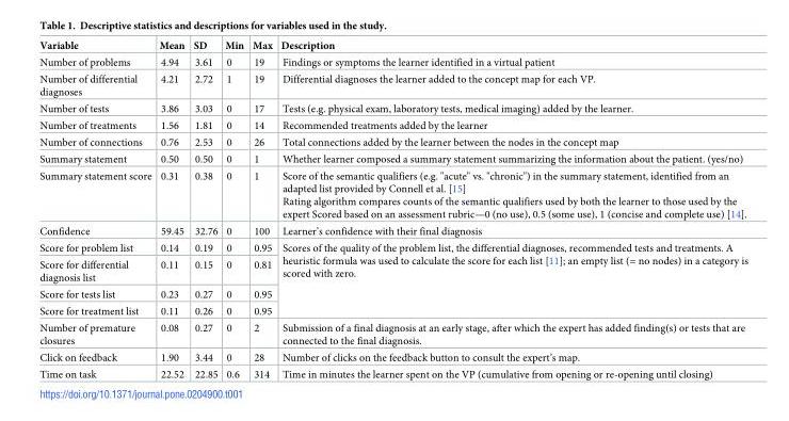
<table><thead><tr><td>Variable</td><td>Mean</td><td>SD</td><td>Min</td><td>Max</td><td>Description</td></tr></thead><tbody><tr><td>Number of problems</td><td>4.94</td><td>3.61</td><td>0</td><td>19</td><td>Findings or symptoms the learner identified in a virtual patient</td></tr><tr><td>Number of differential diagnoses</td><td>4.21</td><td>2.72</td><td>1</td><td>19</td><td>Differential diagnoses the learner added to the concept map for each VP.</td></tr><tr><td>Number of tests</td><td>3.86</td><td>3.03</td><td>0</td><td>17</td><td>Tests (e.g. physical exam, laboratory tests, medical imaging) added by the learner.</td></tr><tr><td>Number of treatments</td><td>1.56</td><td>1.81</td><td>0</td><td>14</td><td>Recommended treatments added by the learner</td></tr><tr><td>Number of connections</td><td>0.76</td><td>2.53</td><td>0</td><td>26</td><td>Total connections added by the learner between the nodes in the concept map</td></tr><tr><td>Summary statement</td><td>0.50</td><td>0.50</td><td>0</td><td>1</td><td>Whether learner composed a summary statement summarizing the information about the patient. (yes/no)</td></tr><tr><td>Summary statement score</td><td>0.31</td><td>0.38</td><td>0</td><td>1</td><td>Score of the semantic qualifiers (e.g. &quot;acute&quot; vs. &quot;chronic&quot;) in the summary statement, identified from an adapted list provided by Connell et al. [15] Rating algorithm compares counts of the semantic qualifiers used by both the learner to those used by the expert Scored based on an assessment rubric—0 (no use), 0.5 (some use), 1 (concise and complete use) [14].</td></tr><tr><td>Confidence</td><td>59.45</td><td>32.76</td><td>0</td><td>100</td><td>Learner’s confidence with their final diagnosis</td></tr><tr><td>Score for problem list</td><td>0.14</td><td>0.19</td><td>0</td><td>0.95</td><td rowspan="4">Scores of the quality of the problem list, the differential diagnoses, recommended tests and treatments. A heuristic formula was used to calculate the score for each list [11]; an empty list (= no nodes) in a category is scored with zero.</td></tr><tr><td>Score for differential diagnosis list</td><td>0.11</td><td>0.15</td><td>0</td><td>0.81</td></tr><tr><td>Score for tests list</td><td>0.23</td><td>0.27</td><td>0</td><td>0.95</td></tr><tr><td>Score for treatment list</td><td>0.11</td><td>0.26</td><td>0</td><td>0.95</td></tr><tr><td>Number of premature closures</td><td>0.08</td><td>0.27</td><td>0</td><td>2</td><td>Submission of a final diagnosis at an early stage, after which the expert has added finding(s) or tests that are connected to the final diagnosis.</td></tr><tr><td>Click on feedback</td><td>1.90</td><td>3.44</td><td>0</td><td>28</td><td>Number of clicks on the feedback button to consult the expert’s map.</td></tr><tr><td>Time on task</td><td>22.52</td><td>22.85</td><td>0.6</td><td>314</td><td>Time in minutes the learner spent on the VP (cumulative from opening or re-opening until closing)</td></tr></tbody></table>